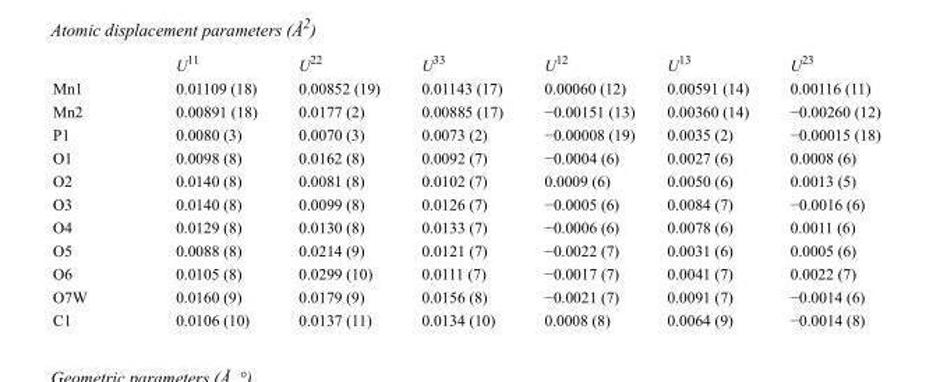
<table><thead><tr><td></td><td>U<sup>11</sup></td><td>U<sup>22</sup></td><td>U<sup>33</sup></td><td>U<sup>12</sup></td><td>U<sup>13</sup></td><td>U<sup>23</sup></td></tr></thead><tbody><tr><td>Mn1</td><td>0.01109 (18)</td><td>0.00852 (19)</td><td>0.01143 (17)</td><td>0.00060 (12)</td><td>0.00591 (14)</td><td>0.00116 (11)</td></tr><tr><td>Mn2</td><td>0.00891 (18)</td><td>0.0177 (2)</td><td>0.00885 (17)</td><td>−0.00151 (13)</td><td>0.00360 (14)</td><td>−0.00260 (12)</td></tr><tr><td>P1</td><td>0.0080 (3)</td><td>0.0070 (3)</td><td>0.0073 (2)</td><td>−0.00008 (19)</td><td>0.0035 (2)</td><td>−0.00015 (18)</td></tr><tr><td>O1</td><td>0.0098 (8)</td><td>0.0162 (8)</td><td>0.0092 (7)</td><td>−0.0004 (6)</td><td>0.0027 (6)</td><td>0.0008 (6)</td></tr><tr><td>O2</td><td>0.0140 (8)</td><td>0.0081 (8)</td><td>0.0102 (7)</td><td>0.0009 (6)</td><td>0.0050 (6)</td><td>0.0013 (5)</td></tr><tr><td>O3</td><td>0.0140 (8)</td><td>0.0099 (8)</td><td>0.0126 (7)</td><td>−0.0005 (6)</td><td>0.0084 (7)</td><td>−0.0016 (6)</td></tr><tr><td>O4</td><td>0.0129 (8)</td><td>0.0130 (8)</td><td>0.0133 (7)</td><td>−0.0006 (6)</td><td>0.0078 (6)</td><td>0.0011 (6)</td></tr><tr><td>O5</td><td>0.0088 (8)</td><td>0.0214 (9)</td><td>0.0121 (7)</td><td>−0.0022 (7)</td><td>0.0031 (6)</td><td>0.0005 (6)</td></tr><tr><td>O6</td><td>0.0105 (8)</td><td>0.0299 (10)</td><td>0.0111 (7)</td><td>−0.0017 (7)</td><td>0.0041 (7)</td><td>0.0022 (7)</td></tr><tr><td>O7W</td><td>0.0160 (9)</td><td>0.0179 (9)</td><td>0.0156 (8)</td><td>−0.0021 (7)</td><td>0.0091 (7)</td><td>−0.0014 (6)</td></tr><tr><td>C1</td><td>0.0106 (10)</td><td>0.0137 (11)</td><td>0.0134 (10)</td><td>0.0008 (8)</td><td>0.0064 (9)</td><td>−0.0014 (8)</td></tr></tbody></table>